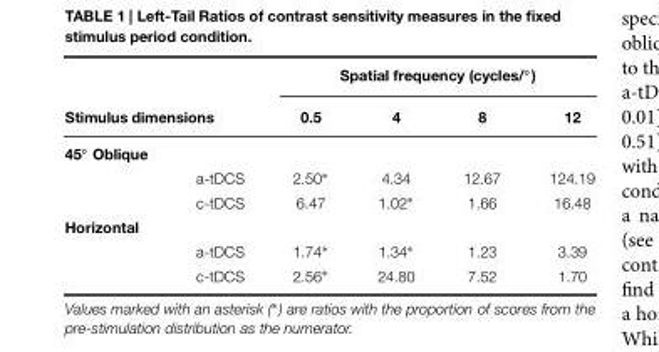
<table><thead><tr><td></td><td></td><td colspan="4">Spatial frequency (cycles/◦)</td></tr><tr><td colspan="2">Stimulus dimensions</td><td>0.5</td><td>4</td><td>8</td><td>12</td></tr></thead><tbody><tr><td colspan="6">45◦ Oblique</td></tr><tr><td></td><td>a-tDCS</td><td>2.50∗</td><td>4.34</td><td>12.67</td><td>124.19</td></tr><tr><td></td><td>c-tDCS</td><td>6.47</td><td>1.02∗</td><td>1.66</td><td>16.48</td></tr><tr><td colspan="6">Horizontal</td></tr><tr><td></td><td>a-tDCS</td><td>1.74∗</td><td>1.34∗</td><td>1.23</td><td>3.39</td></tr><tr><td></td><td>c-tDCS</td><td>2.56∗</td><td>24.80</td><td>7.52</td><td>1.70</td></tr></tbody></table>